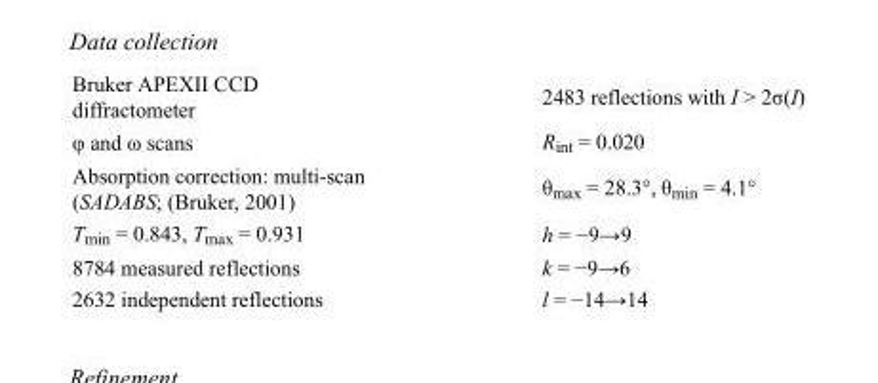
<table><tbody><tr><td>Bruker APEXII CCD diffractometer</td><td>2483 reflections with I &gt; 2σ(I)</td></tr><tr><td>φ and ω scans</td><td>R<sub>int</sub> = 0.020</td></tr><tr><td>Absorption correction: multi-scan (SADABS; (Bruker, 2001)</td><td>θ<sub>max</sub> = 28.3°, θ<sub>min</sub> = 4.1°</td></tr><tr><td>T<sub>min</sub> = 0.843, T<sub>max</sub> = 0.931</td><td>h = −9→9</td></tr><tr><td>8784 measured reflections</td><td>k = −9→6</td></tr><tr><td>2632 independent reflections</td><td>l = −14→14</td></tr></tbody></table>